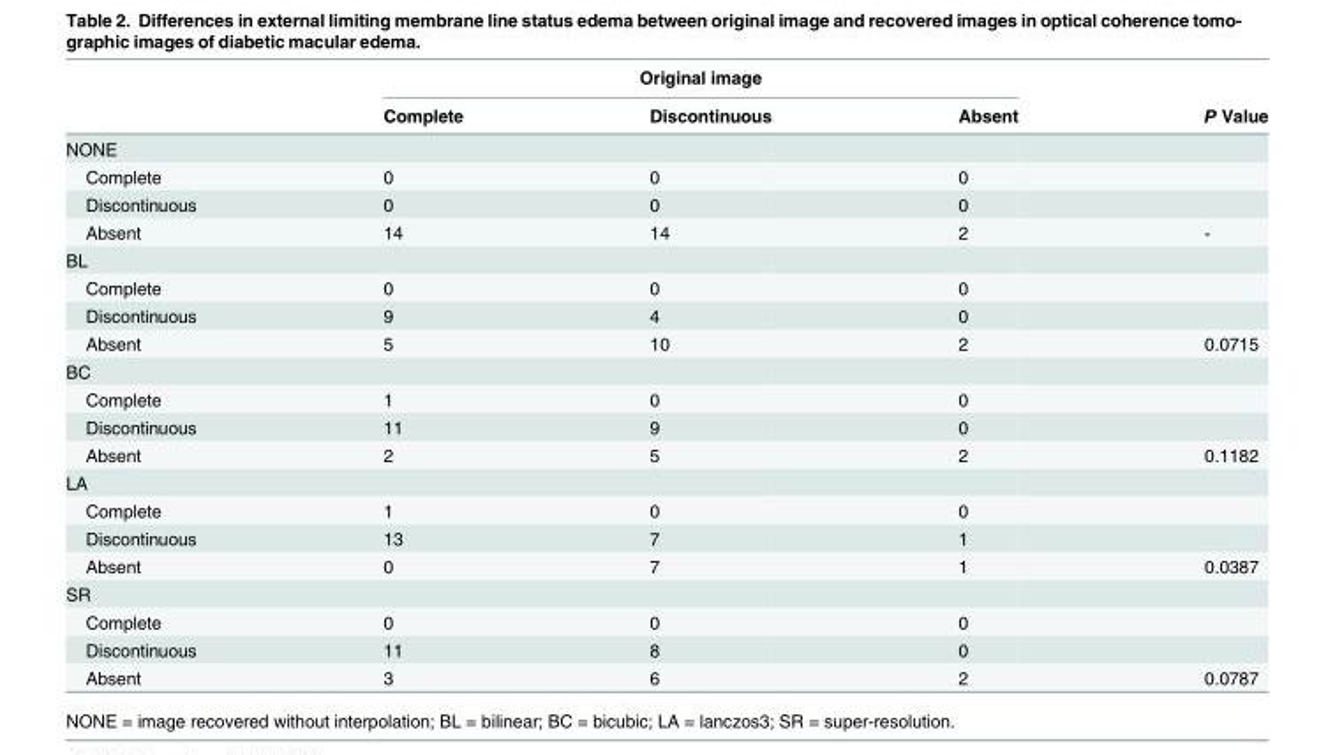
<table><thead><tr><td rowspan="2"></td><td colspan="3">Original image</td><td rowspan="2">P Value</td></tr><tr><td>Complete</td><td>Discontinuous</td><td>Absent</td></tr></thead><tbody><tr><td colspan="5">NONE</td></tr><tr><td>Complete</td><td>0</td><td>0</td><td>0</td><td></td></tr><tr><td>Discontinuous</td><td>0</td><td>0</td><td>0</td><td></td></tr><tr><td>Absent</td><td>14</td><td>14</td><td>2</td><td>-</td></tr><tr><td colspan="5">BL</td></tr><tr><td>Complete</td><td>0</td><td>0</td><td>0</td><td></td></tr><tr><td>Discontinuous</td><td>9</td><td>4</td><td>0</td><td></td></tr><tr><td>Absent</td><td>5</td><td>10</td><td>2</td><td>0.0715</td></tr><tr><td colspan="5">BC</td></tr><tr><td>Complete</td><td>1</td><td>0</td><td>0</td><td></td></tr><tr><td>Discontinuous</td><td>11</td><td>9</td><td>0</td><td></td></tr><tr><td>Absent</td><td>2</td><td>5</td><td>2</td><td>0.1182</td></tr><tr><td colspan="5">LA</td></tr><tr><td>Complete</td><td>1</td><td>0</td><td>0</td><td></td></tr><tr><td>Discontinuous</td><td>13</td><td>7</td><td>1</td><td></td></tr><tr><td>Absent</td><td>0</td><td>7</td><td>1</td><td>0.0387</td></tr><tr><td colspan="5">SR</td></tr><tr><td>Complete</td><td>0</td><td>0</td><td>0</td><td></td></tr><tr><td>Discontinuous</td><td>11</td><td>8</td><td>0</td><td></td></tr><tr><td>Absent</td><td>3</td><td>6</td><td>2</td><td>0.0787</td></tr></tbody></table>